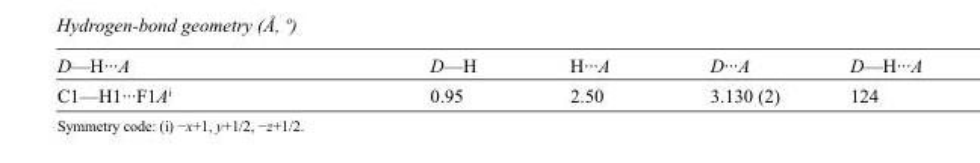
<table><tbody><tr><td>D—H···A</td><td>D—H</td><td>H···A</td><td>D···A</td><td>D—H···A</td></tr><tr><td>C1—H1···F1A<sup>i</sup></td><td>0.95</td><td>2.50</td><td>3.130 (2)</td><td>124</td></tr></tbody></table>